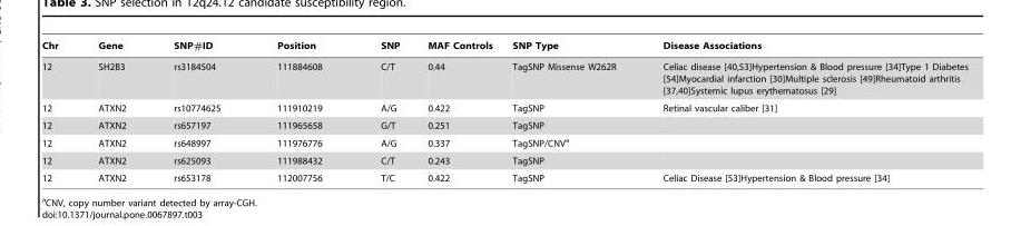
<table><thead><tr><td>Chr</td><td>Gene</td><td>SNP#ID</td><td>Position</td><td>SNP</td><td>MAF Controls</td><td>SNP Type</td><td>Disease Associations</td></tr></thead><tbody><tr><td>12</td><td>SH2B3</td><td>rs3184504</td><td>111884608</td><td>C/T</td><td>0.44</td><td>TagSNP Missense W262R</td><td>Celiac disease [40,53]Hypertension &amp; Blood pressure [34]Type 1 Diabetes [54]Myocardial infarction [30]Multiple sclerosis [49]Rheumatoid arthritis [37,40]Systemic lupus erythematosus [29]</td></tr><tr><td>12</td><td>ATXN2</td><td>rs10774625</td><td>111910219</td><td>A/G</td><td>0.422</td><td>TagSNP</td><td>Retinal vascular caliber [31]</td></tr><tr><td>12</td><td>ATXN2</td><td>rs657197</td><td>111965658</td><td>G/T</td><td>0.251</td><td>TagSNP</td><td></td></tr><tr><td>12</td><td>ATXN2</td><td>rs648997</td><td>111976776</td><td>A/G</td><td>0.337</td><td>TagSNP/CNV<sup>a</sup></td><td></td></tr><tr><td>12</td><td>ATXN2</td><td>rs625093</td><td>111988432</td><td>C/T</td><td>0.243</td><td>TagSNP</td><td></td></tr><tr><td>12</td><td>ATXN2</td><td>rs653178</td><td>112007756</td><td>T/C</td><td>0.422</td><td>TagSNP</td><td>Celiac Disease [53]Hypertension &amp; Blood pressure [34]</td></tr></tbody></table>